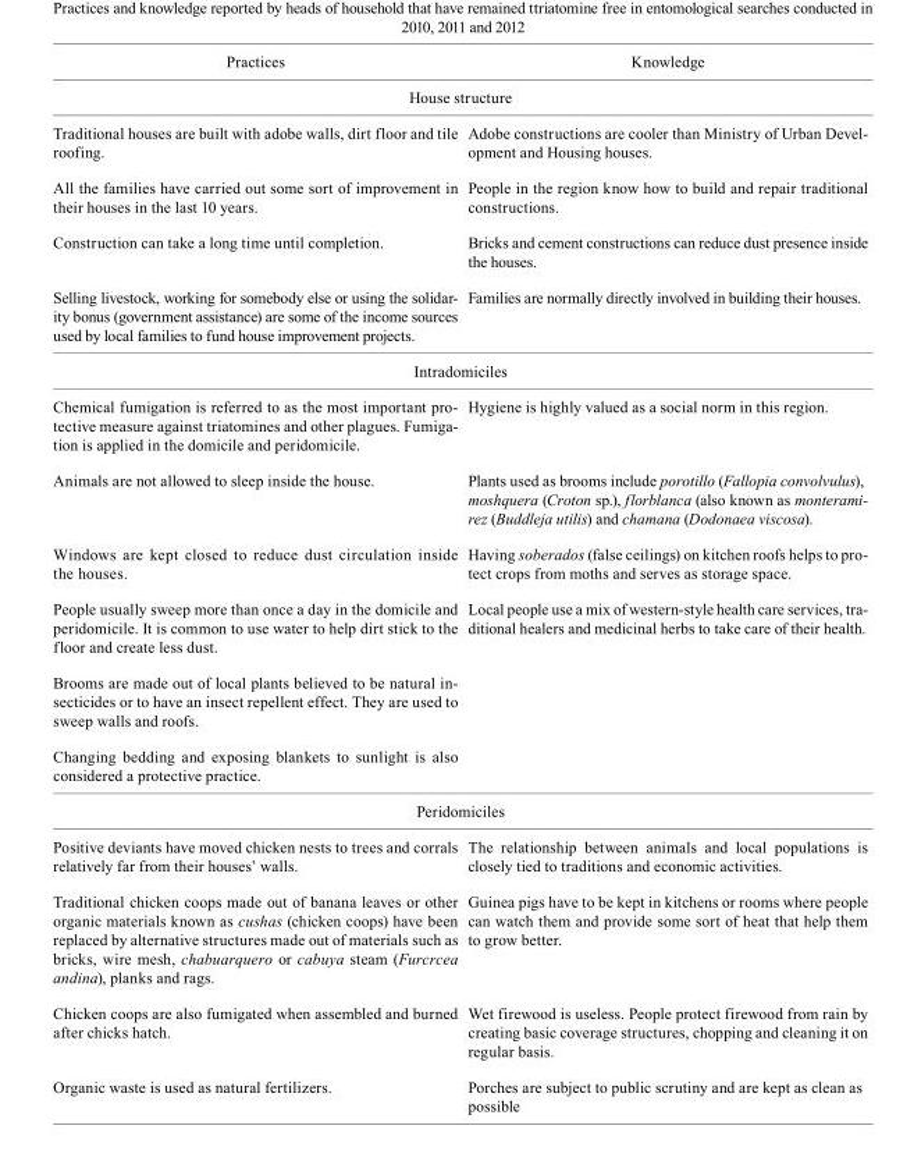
<table><thead><tr><td>Practices</td><td>Knowledge</td></tr></thead><tbody><tr><td colspan="2">House structure</td></tr><tr><td>Traditional houses are built with adobe walls, dirt floor and tile roofing.</td><td>Adobe constructions are cooler than Ministry of Urban Devel- opment and Housing houses.</td></tr><tr><td>All the families have carried out some sort of improvement in their houses in the last 10 years.</td><td>People in the region know how to build and repair traditional constructions.</td></tr><tr><td>Construction can take a long time until completion.</td><td>Bricks and cement constructions can reduce dust presence inside the houses.</td></tr><tr><td>Selling livestock, working for somebody else or using the solidar- ity bonus (government assistance) are some of the income sources used by local families to fund house improvement projects.</td><td>Families are normally directly involved in building their houses.</td></tr><tr><td colspan="2">Intradomiciles</td></tr><tr><td>Chemical fumigation is referred to as the most important pro- tective measure against triatomines and other plagues. Fumiga- tion is applied in the domicile and peridomicile.</td><td>Hygiene is highly valued as a social norm in this region.</td></tr><tr><td>Animals are not allowed to sleep inside the house.</td><td>Plants used as brooms include porotillo (Fallopia convolvulus), moshquera (Croton sp.), florblanca (also known as monterami- rez (Buddleja utilis) and chamana (Dodonaea viscosa).</td></tr><tr><td>Windows are kept closed to reduce dust circulation inside the houses.</td><td>Having soberados (false ceilings) on kitchen roofs helps to pro- tect crops from moths and serves as storage space.</td></tr><tr><td>People usually sweep more than once a day in the domicile and peridomicile. It is common to use water to help dirt stick to the floor and create less dust.</td><td>Local people use a mix of western-style health care services, tra- ditional healers and medicinal herbs to take care of their health.</td></tr><tr><td colspan="2">Brooms are made out of local plants believed to be natural in- secticides or to have an insect repellent effect. They are used to sweep walls and roofs.</td></tr><tr><td colspan="2">Changing bedding and exposing blankets to sunlight is also considered a protective practice.</td></tr><tr><td colspan="2">Peridomiciles</td></tr><tr><td>Positive deviants have moved chicken nests to trees and corrals relatively far from their houses’ walls.</td><td>The relationship between animals and local populations is closely tied to traditions and economic activities.</td></tr><tr><td>Traditional chicken coops made out of banana leaves or other organic materials known as cushas (chicken coops) have been replaced by alternative structures made out of materials such as bricks, wire mesh, chabuarquero or cabuya steam (Furcrcea andina), planks and rags.</td><td>Guinea pigs have to be kept in kitchens or rooms where people can watch them and provide some sort of heat that help them to grow better.</td></tr><tr><td>Chicken coops are also fumigated when assembled and burned after chicks hatch.</td><td>Wet firewood is useless. People protect firewood from rain by creating basic coverage structures, chopping and cleaning it on regular basis.</td></tr><tr><td>Organic waste is used as natural fertilizers.</td><td>Porches are subject to public scrutiny and are kept as clean as possible</td></tr></tbody></table>